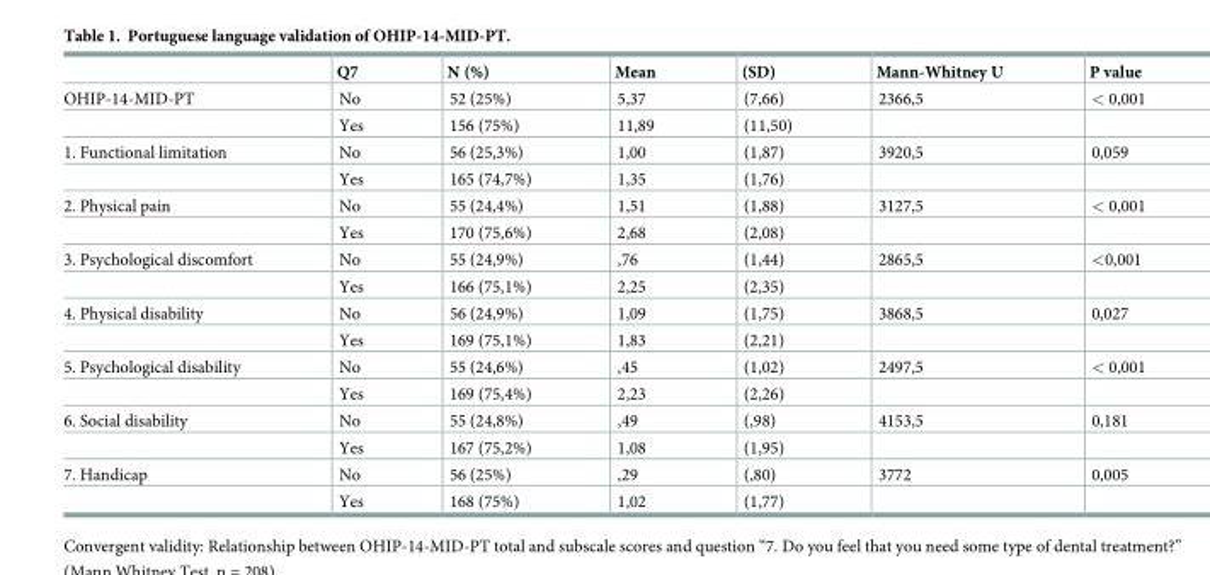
<table><thead><tr><td></td><td>Q7</td><td>N (%)</td><td>Mean</td><td>(SD)</td><td>Mann-Whitney U</td><td>P value</td></tr></thead><tbody><tr><td rowspan="2">OHIP-14-MID-PT</td><td>No</td><td>52 (25%)</td><td>5,37</td><td>(7,66)</td><td>2366,5</td><td>&lt; 0,001</td></tr><tr><td>Yes</td><td>156 (75%)</td><td>11,89</td><td>(11,50)</td><td></td><td></td></tr><tr><td rowspan="2">1. Functional limitation</td><td>No</td><td>56 (25,3%)</td><td>1,00</td><td>(1,87)</td><td>3920,5</td><td>0,059</td></tr><tr><td>Yes</td><td>165 (74,7%)</td><td>1,35</td><td>(1,76)</td><td></td><td></td></tr><tr><td rowspan="2">2. Physical pain</td><td>No</td><td>55 (24,4%)</td><td>1,51</td><td>(1,88)</td><td>3127,5</td><td>&lt; 0,001</td></tr><tr><td>Yes</td><td>170 (75,6%)</td><td>2,68</td><td>(2,08)</td><td></td><td></td></tr><tr><td rowspan="2">3. Psychological discomfort</td><td>No</td><td>55 (24,9%)</td><td>,76</td><td>(1,44)</td><td>2865,5</td><td>&lt;0,001</td></tr><tr><td>Yes</td><td>166 (75,1%)</td><td>2,25</td><td>(2,35)</td><td></td><td></td></tr><tr><td rowspan="2">4. Physical disability</td><td>No</td><td>56 (24,9%)</td><td>1,09</td><td>(1,75)</td><td>3868,5</td><td>0,027</td></tr><tr><td>Yes</td><td>169 (75,1%)</td><td>1,83</td><td>(2,21)</td><td></td><td></td></tr><tr><td rowspan="2">5. Psychological disability</td><td>No</td><td>55 (24,6%)</td><td>,45</td><td>(1,02)</td><td>2497,5</td><td>&lt; 0,001</td></tr><tr><td>Yes</td><td>169 (75,4%)</td><td>2,23</td><td>(2,26)</td><td></td><td></td></tr><tr><td rowspan="2">6. Social disability</td><td>No</td><td>55 (24,8%)</td><td>,49</td><td>(,98)</td><td>4153,5</td><td>0,181</td></tr><tr><td>Yes</td><td>167 (75,2%)</td><td>1,08</td><td>(1,95)</td><td></td><td></td></tr><tr><td rowspan="2">7. Handicap</td><td>No</td><td>56 (25%)</td><td>,29</td><td>(,80)</td><td>3772</td><td>0,005</td></tr><tr><td>Yes</td><td>168 (75%)</td><td>1,02</td><td>(1,77)</td><td></td><td></td></tr></tbody></table>